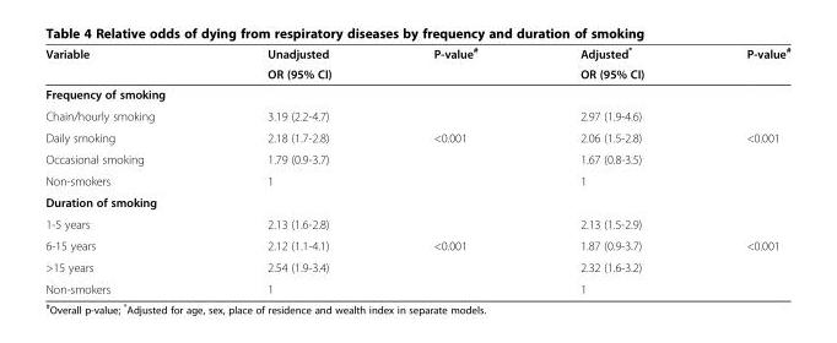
<table><thead><tr><td rowspan="2">Variable</td><td rowspan="2">Unadjusted OR (95% CI)</td><td rowspan="2">P-value<sup>#</sup></td><td rowspan="2">Adjusted* OR (95% CI)</td><td rowspan="2">P-value<sup>#</sup></td></tr><tr></tr></thead><tbody><tr><td colspan="5">Frequency of smoking</td></tr><tr><td>Chain/hourly smoking</td><td>3.19 (2.2-4.7)</td><td></td><td>2.97 (1.9-4.6)</td><td></td></tr><tr><td>Daily smoking</td><td>2.18 (1.7-2.8)</td><td>&lt;0.001</td><td>2.06 (1.5-2.8)</td><td>&lt;0.001</td></tr><tr><td>Occasional smoking</td><td>1.79 (0.9-3.7)</td><td></td><td>1.67 (0.8-3.5)</td><td></td></tr><tr><td>Non-smokers</td><td>1</td><td></td><td>1</td><td></td></tr><tr><td colspan="5">Duration of smoking</td></tr><tr><td>1-5 years</td><td>2.13 (1.6-2.8)</td><td></td><td>2.13 (1.5-2.9)</td><td></td></tr><tr><td>6-15 years</td><td>2.12 (1.1-4.1)</td><td>&lt;0.001</td><td>1.87 (0.9-3.7)</td><td>&lt;0.001</td></tr><tr><td>&gt;15 years</td><td>2.54 (1.9-3.4)</td><td></td><td>2.32 (1.6-3.2)</td><td></td></tr><tr><td>Non-smokers</td><td>1</td><td></td><td>1</td><td></td></tr></tbody></table>